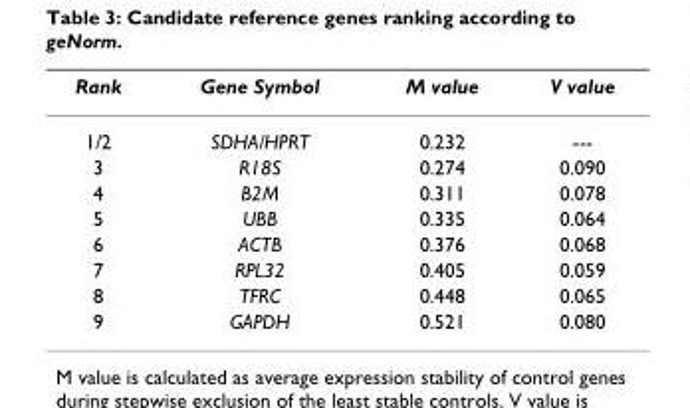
<table><thead><tr><td>Rank</td><td>Gene Symbol</td><td>M value</td><td>V value</td></tr></thead><tbody><tr><td>1/2</td><td>SDHA/HPRT</td><td>0.232</td><td>---</td></tr><tr><td>3</td><td>R18S</td><td>0.274</td><td>0.090</td></tr><tr><td>4</td><td>B2M</td><td>0.311</td><td>0.078</td></tr><tr><td>5</td><td>UBB</td><td>0.335</td><td>0.064</td></tr><tr><td>6</td><td>ACTB</td><td>0.376</td><td>0.068</td></tr><tr><td>7</td><td>RPL32</td><td>0.405</td><td>0.059</td></tr><tr><td>8</td><td>TFRC</td><td>0.448</td><td>0.065</td></tr><tr><td>9</td><td>GAPDH</td><td>0.521</td><td>0.080</td></tr></tbody></table>